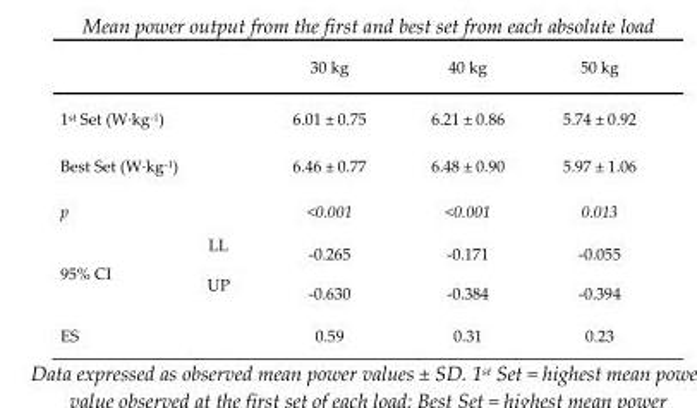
<table><thead><tr><td></td><td></td><td>30 kg</td><td>40 kg</td><td>50 kg</td></tr></thead><tbody><tr><td>1<sup>st</sup> Set (W·kg<sup>-1</sup>)</td><td></td><td>6.01 ± 0.75</td><td>6.21 ± 0.86</td><td>5.74 ± 0.92</td></tr><tr><td>Best Set (W·kg<sup>-1</sup>)</td><td></td><td>6.46 ± 0.77</td><td>6.48 ± 0.90</td><td>5.97 ± 1.06</td></tr><tr><td>p</td><td></td><td>&lt;0.001</td><td>&lt;0.001</td><td>0.013</td></tr><tr><td rowspan="2">95% CI</td><td>LL</td><td>-0.265</td><td>-0.171</td><td>-0.055</td></tr><tr><td>UP</td><td>-0.630</td><td>-0.384</td><td>-0.394</td></tr><tr><td>ES</td><td></td><td>0.59</td><td>0.31</td><td>0.23</td></tr></tbody></table>